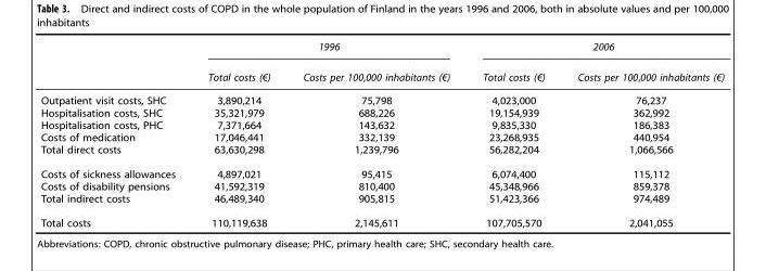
<table><thead><tr><td rowspan="2"></td><td colspan="2">1996</td><td colspan="2">2006</td></tr><tr><td>Total costs (€)</td><td>Costs per 100,000 inhabitants (€)</td><td>Total costs (€)</td><td>Costs per 100,000 inhabitants (€)</td></tr></thead><tbody><tr><td>Outpatient visit costs, SHC</td><td>3,890,214</td><td>75,798</td><td>4,023,000</td><td>76,237</td></tr><tr><td>Hospitalisation costs, SHC</td><td>35,321,979</td><td>688,226</td><td>19,154,939</td><td>362,992</td></tr><tr><td>Hospitalisation costs, PHC</td><td>7,371,664</td><td>143,632</td><td>9,835,330</td><td>186,383</td></tr><tr><td>Costs of medication</td><td>17,046,441</td><td>332,139</td><td>23,268,935</td><td>440,954</td></tr><tr><td>Total direct costs</td><td>63,630,298</td><td>1,239,796</td><td>56,282,204</td><td>1,066,566</td></tr><tr><td>Costs of sickness allowances</td><td>4,897,021</td><td>95,415</td><td>6,074,400</td><td>115,112</td></tr><tr><td>Costs of disability pensions</td><td>41,592,319</td><td>810,400</td><td>45,348,966</td><td>859,378</td></tr><tr><td>Total indirect costs</td><td>46,489,340</td><td>905,815</td><td>51,423,366</td><td>974,489</td></tr><tr><td>Total costs</td><td>110,119,638</td><td>2,145,611</td><td>107,705,570</td><td>2,041,055</td></tr></tbody></table>